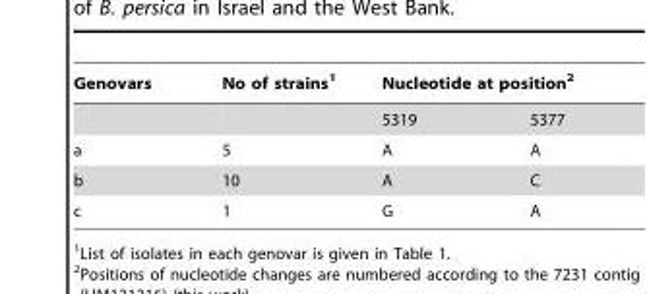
<table><thead><tr><td rowspan="2">Genovars</td><td rowspan="2">No of strains<sup>1</sup></td><td colspan="2">Nucleotide at position<sup>2</sup></td></tr><tr><td>5319</td><td>5377</td></tr></thead><tbody><tr><td>a</td><td>5</td><td>A</td><td>A</td></tr><tr><td>b</td><td>10</td><td>A</td><td>C</td></tr><tr><td>c</td><td>1</td><td>G</td><td>A</td></tr></tbody></table>